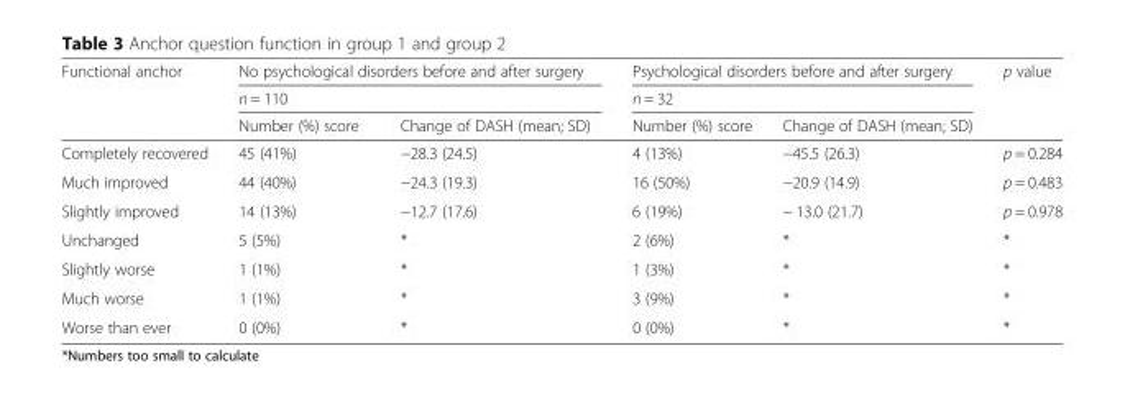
<table><thead><tr><td rowspan="3">Functional anchor</td><td rowspan="2" colspan="2">No psychological disorders before and after surgery n = 110</td><td rowspan="2" colspan="2">Psychological disorders before and after surgery n = 32</td><td rowspan="3">p value</td></tr><tr></tr><tr><td>Number (%) score</td><td>Change of DASH (mean; SD)</td><td>Number (%) score</td><td>Change of DASH (mean; SD)</td></tr></thead><tbody><tr><td>Completely recovered</td><td>45 (41%)</td><td>−28.3 (24.5)</td><td>4 (13%)</td><td>−45.5 (26.3)</td><td>p = 0.284</td></tr><tr><td>Much improved</td><td>44 (40%)</td><td>−24.3 (19.3)</td><td>16 (50%)</td><td>−20.9 (14.9)</td><td>p = 0.483</td></tr><tr><td>Slightly improved</td><td>14 (13%)</td><td>−12.7 (17.6)</td><td>6 (19%)</td><td>− 13.0 (21.7)</td><td>p = 0.978</td></tr><tr><td>Unchanged</td><td>5 (5%)</td><td>*</td><td>2 (6%)</td><td>*</td><td>*</td></tr><tr><td>Slightly worse</td><td>1 (1%)</td><td>*</td><td>1 (3%)</td><td>*</td><td>*</td></tr><tr><td>Much worse</td><td>1 (1%)</td><td>*</td><td>3 (9%)</td><td>*</td><td>*</td></tr><tr><td>Worse than ever</td><td>0 (0%)</td><td>*</td><td>0 (0%)</td><td>*</td><td>*</td></tr></tbody></table>